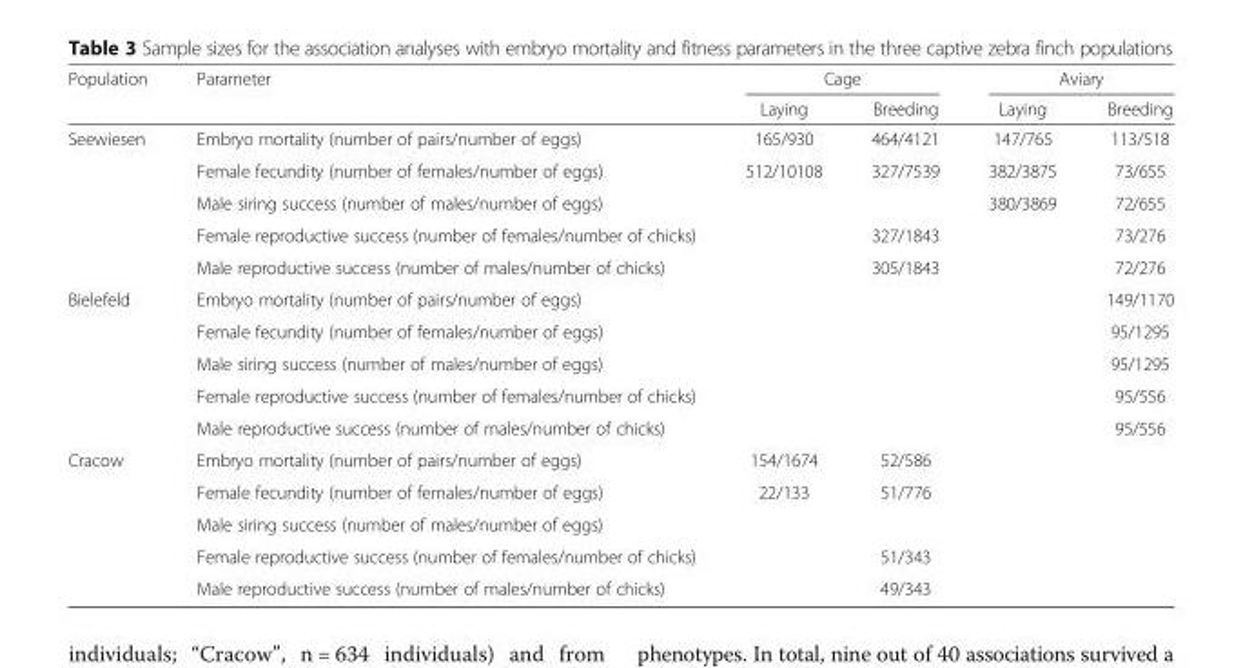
<table><thead><tr><td rowspan="2">Population</td><td rowspan="2">Parameter</td><td colspan="2">Cage</td><td colspan="2">Aviary</td></tr><tr><td>Laying</td><td>Breeding</td><td>Laying</td><td>Breeding</td></tr></thead><tbody><tr><td rowspan="5">Seewiesen</td><td>Embryo mortality (number of pairs/number of eggs)</td><td>165/930</td><td>464/4121</td><td>147/765</td><td>113/518</td></tr><tr><td>Female fecundity (number of females/number of eggs)</td><td>512/10108</td><td>327/7539</td><td>382/3875</td><td>73/655</td></tr><tr><td>Male siring success (number of males/number of eggs)</td><td></td><td></td><td>380/3869</td><td>72/655</td></tr><tr><td>Female reproductive success (number of females/number of chicks)</td><td></td><td>327/1843</td><td></td><td>73/276</td></tr><tr><td>Male reproductive success (number of males/number of chicks)</td><td></td><td>305/1843</td><td></td><td>72/276</td></tr><tr><td rowspan="5">Bielefeld</td><td>Embryo mortality (number of pairs/number of eggs)</td><td></td><td></td><td></td><td>149/1170</td></tr><tr><td>Female fecundity (number of females/number of eggs)</td><td></td><td></td><td></td><td>95/1295</td></tr><tr><td>Male siring success (number of males/number of eggs)</td><td></td><td></td><td></td><td>95/1295</td></tr><tr><td>Female reproductive success (number of females/number of chicks)</td><td></td><td></td><td></td><td>95/556</td></tr><tr><td>Male reproductive success (number of males/number of chicks)</td><td></td><td></td><td></td><td>95/556</td></tr><tr><td rowspan="5">Cracow</td><td>Embryo mortality (number of pairs/number of eggs)</td><td>154/1674</td><td>52/586</td><td></td><td></td></tr><tr><td>Female fecundity (number of females/number of eggs)</td><td>22/133</td><td>51/776</td><td></td><td></td></tr><tr><td>Male siring success (number of males/number of eggs)</td><td></td><td></td><td></td><td></td></tr><tr><td>Female reproductive success (number of females/number of chicks)</td><td></td><td>51/343</td><td></td><td></td></tr><tr><td>Male reproductive success (number of males/number of chicks)</td><td></td><td>49/343</td><td></td><td></td></tr></tbody></table>